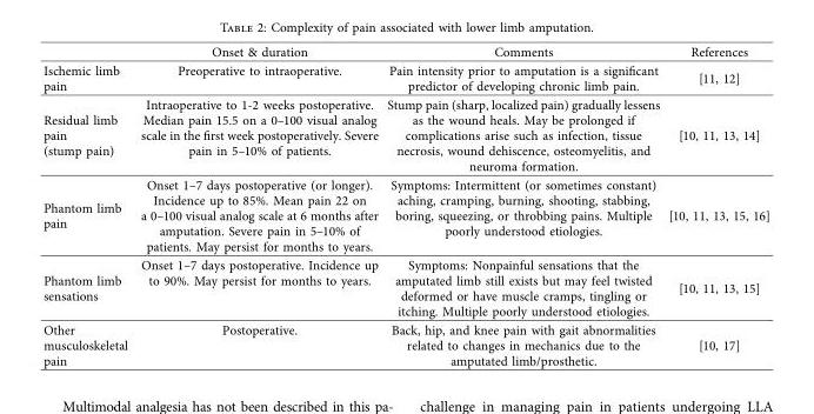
<table><thead><tr><td></td><td>Onset &amp; duration</td><td>Comments</td><td>References</td></tr></thead><tbody><tr><td>Ischemic limb pain</td><td>Preoperative to intraoperative.</td><td>Pain intensity prior to amputation is a significant predictor of developing chronic limb pain.</td><td>[11, 12]</td></tr><tr><td>Residual limb pain (stump pain)</td><td>Intraoperative to 1-2 weeks postoperative. Median pain 15.5 on a 0–100 visual analog scale in the first week postoperatively. Severe pain in 5–10% of patients.</td><td>Stump pain (sharp, localized pain) gradually lessens as the wound heals. May be prolonged if complications arise such as infection, tissue necrosis, wound dehiscence, osteomyelitis, and neuroma formation.</td><td>[10, 11, 13, 14]</td></tr><tr><td>Phantom limb pain</td><td>Onset 1–7 days postoperative (or longer). Incidence up to 85%. Mean pain 22 on a 0–100 visual analog scale at 6 months after amputation. Severe pain in 5–10% of patients. May persist for months to years.</td><td>Symptoms: Intermittent (or sometimes constant) aching, cramping, burning, shooting, stabbing, boring, squeezing, or throbbing pains. Multiple poorly understood etiologies.</td><td>[10, 11, 13, 15, 16]</td></tr><tr><td>Phantom limb sensations</td><td>Onset 1–7 days postoperative. Incidence up to 90%. May persist for months to years.</td><td>Symptoms: Nonpainful sensations that the amputated limb still exists but may feel twisted deformed or have muscle cramps, tingling or itching. Multiple poorly understood etiologies.</td><td>[10, 11, 13, 15]</td></tr><tr><td>Other musculoskeletal pain</td><td>Postoperative.</td><td>Back, hip, and knee pain with gait abnormalities related to changes in mechanics due to the amputated limb/prosthetic.</td><td>[10, 17]</td></tr></tbody></table>